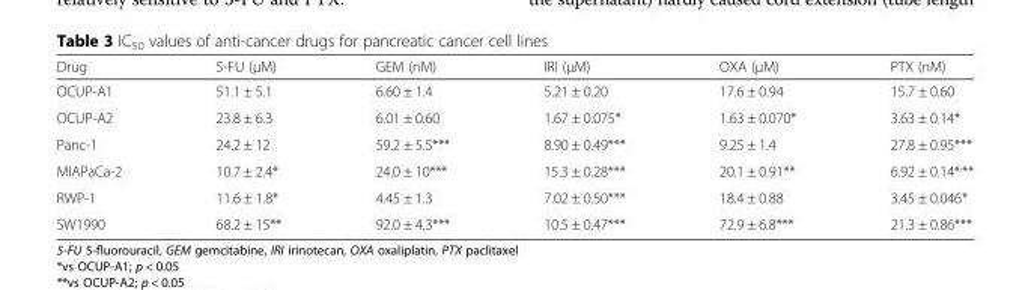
<table><thead><tr><td>Drug</td><td>5-FU (μM)</td><td>GEM (nM)</td><td>IRI (μM)</td><td>OXA (μM)</td><td>PTX (nM)</td></tr></thead><tbody><tr><td>OCUP-A1</td><td>51.1 ± 5.1</td><td>6.60 ± 1.4</td><td>5.21 ± 0.20</td><td>17.6 ± 0.94</td><td>15.7 ± 0.60</td></tr><tr><td>OCUP-A2</td><td>23.8 ± 6.3</td><td>6.01 ± 0.60</td><td>1.67 ± 0.075*</td><td>1.63 ± 0.070*</td><td>3.63 ± 0.14*</td></tr><tr><td>Panc-1</td><td>24.2 ± 12</td><td>59.2 ± 5.5***</td><td>8.90 ± 0.49***</td><td>9.25 ± 1.4</td><td>27.8 ± 0.95***</td></tr><tr><td>MIAPaCa-2</td><td>10.7 ± 2.4*</td><td>24.0 ± 10***</td><td>15.3 ± 0.28***</td><td>20.1 ± 0.91**</td><td>6.92 ± 0.14*<sup>,</sup>**</td></tr><tr><td>RWP-1</td><td>11.6 ± 1.8*</td><td>4.45 ± 1.3</td><td>7.02 ± 0.50***</td><td>18.4 ± 0.88</td><td>3.45 ± 0.046*</td></tr><tr><td>SW1990</td><td>68.2 ± 15**</td><td>92.0 ± 4.3***</td><td>10.5 ± 0.47***</td><td>72.9 ± 6.8***</td><td>21.3 ± 0.86***</td></tr></tbody></table>